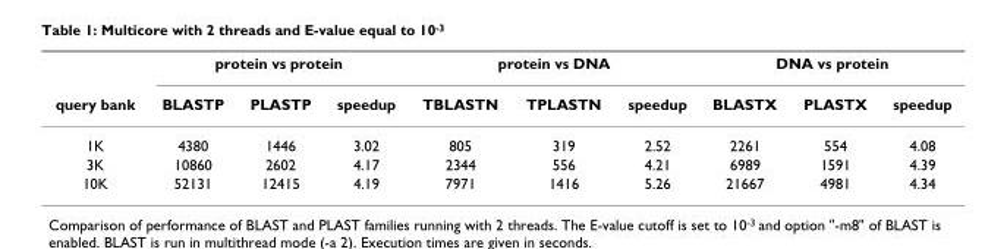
<table><thead><tr><td rowspan="2">query bank</td><td colspan="3">protein vs protein</td><td colspan="3">protein vs DNA</td><td colspan="3">DNA vs protein</td></tr><tr><td>BLASTP</td><td>PLASTP</td><td>speedup</td><td>TBLASTN</td><td>TPLASTN</td><td>speedup</td><td>BLASTX</td><td>PLASTX</td><td>speedup</td></tr></thead><tbody><tr><td>1K</td><td>4380</td><td>1446</td><td>3.02</td><td>805</td><td>319</td><td>2.52</td><td>2261</td><td>554</td><td>4.08</td></tr><tr><td>3K</td><td>10860</td><td>2602</td><td>4.17</td><td>2344</td><td>556</td><td>4.21</td><td>6989</td><td>1591</td><td>4.39</td></tr><tr><td>10K</td><td>52131</td><td>12415</td><td>4.19</td><td>7971</td><td>1416</td><td>5.26</td><td>21667</td><td>4981</td><td>4.34</td></tr></tbody></table>